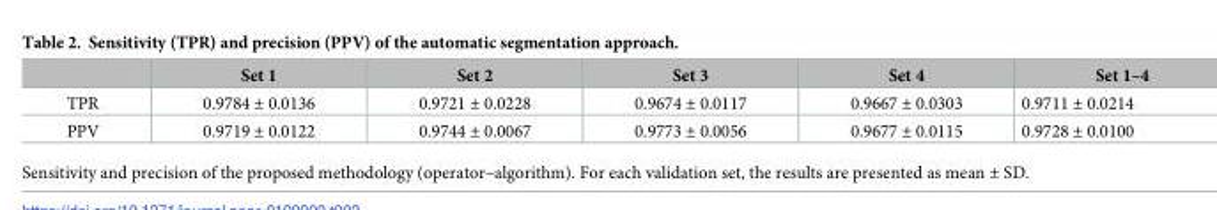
<table><thead><tr><td></td><td>Set 1</td><td>Set 2</td><td>Set 3</td><td>Set 4</td><td>Set 1–4</td></tr></thead><tbody><tr><td>TPR</td><td>0.9784 ± 0.0136</td><td>0.9721 ± 0.0228</td><td>0.9674 ± 0.0117</td><td>0.9667 ± 0.0303</td><td>0.9711 ± 0.0214</td></tr><tr><td>PPV</td><td>0.9719 ± 0.0122</td><td>0.9744 ± 0.0067</td><td>0.9773 ± 0.0056</td><td>0.9677 ± 0.0115</td><td>0.9728 ± 0.0100</td></tr></tbody></table>